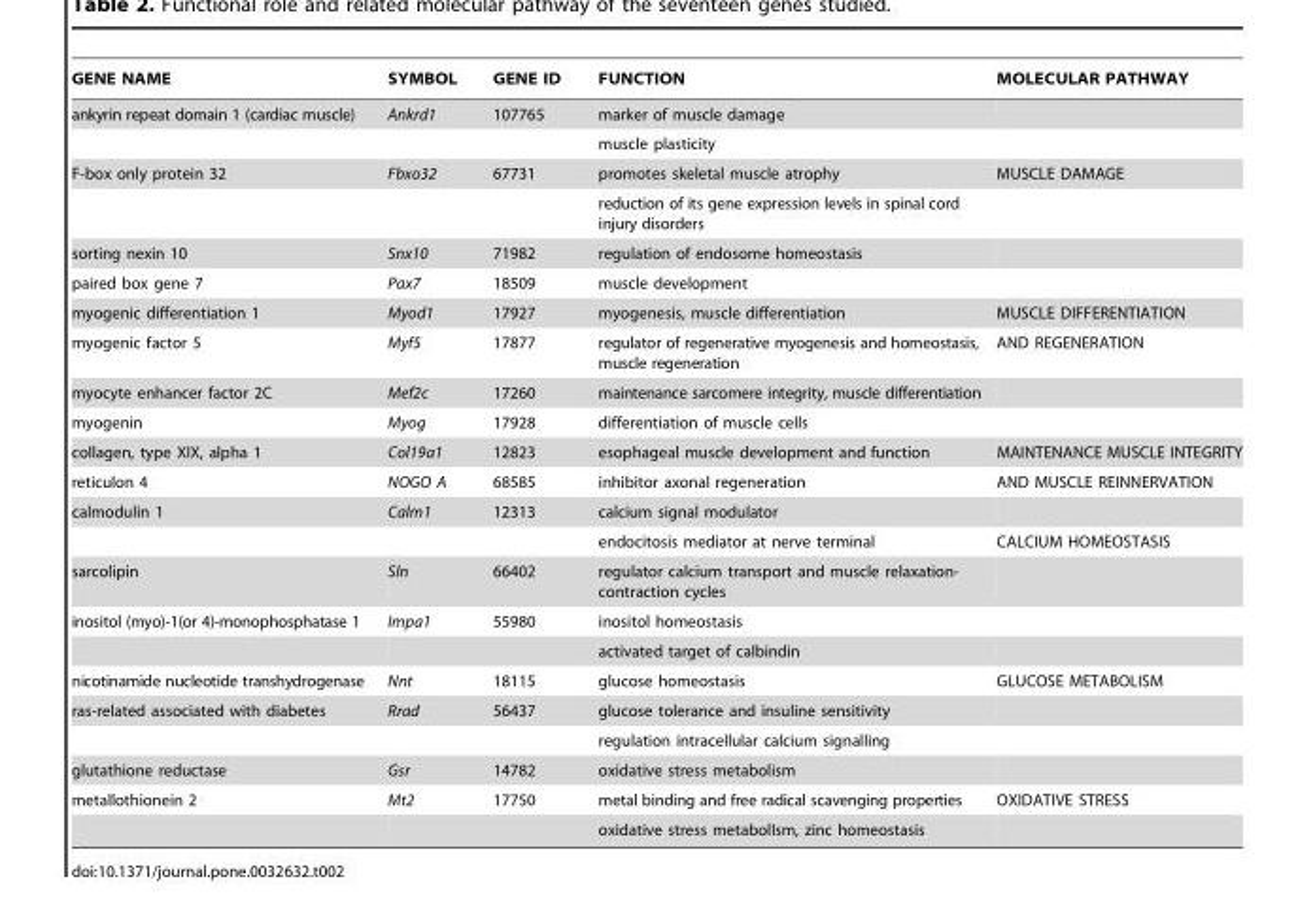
<table><thead><tr><td>GENE NAME</td><td>SYMBOL</td><td>GENE ID</td><td>FUNCTION</td><td>MOLECULAR PATHWAY</td></tr></thead><tbody><tr><td rowspan="2">ankyrin repeat domain 1 (cardiac muscle)</td><td>Ankrd1</td><td>107765</td><td>marker of muscle damage</td><td></td></tr><tr><td></td><td></td><td>muscle plasticity</td><td></td></tr><tr><td rowspan="2">F-box only protein 32</td><td>Fbxo32</td><td>67731</td><td>promotes skeletal muscle atrophy</td><td>MUSCLE DAMAGE</td></tr><tr><td></td><td></td><td>reduction of its gene expression levels in spinal cord injury disorders</td><td></td></tr><tr><td>sorting nexin 10</td><td>Snx10</td><td>71982</td><td>regulation of endosome homeostasis</td><td></td></tr><tr><td>paired box gene 7</td><td>Pax7</td><td>18509</td><td>muscle development</td><td></td></tr><tr><td>myogenic differentiation 1</td><td>Myod1</td><td>17927</td><td>myogenesis, muscle differentiation</td><td>MUSCLE DIFFERENTIATION</td></tr><tr><td>myogenic factor 5</td><td>Myf5</td><td>17877</td><td>regulator of regenerative myogenesis and homeostasis, muscle regeneration</td><td>AND REGENERATION</td></tr><tr><td>myocyte enhancer factor 2C</td><td>Mef2c</td><td>17260</td><td>maintenance sarcomere integrity, muscle differentiation</td><td></td></tr><tr><td>myogenin</td><td>Myog</td><td>17928</td><td>differentiation of muscle cells</td><td></td></tr><tr><td>collagen, type XIX, alpha 1</td><td>Col19a1</td><td>12823</td><td>esophageal muscle development and function</td><td>MAINTENANCE MUSCLE INTEGRITY</td></tr><tr><td>reticulon 4</td><td>NOGO A</td><td>68585</td><td>inhibitor axonal regeneration</td><td>AND MUSCLE REINNERVATION</td></tr><tr><td rowspan="2">calmodulin 1</td><td>Calm1</td><td>12313</td><td>calcium signal modulator</td><td></td></tr><tr><td></td><td></td><td>endocitosis mediator at nerve terminal</td><td>CALCIUM HOMEOSTASIS</td></tr><tr><td>sarcolipin</td><td>Sln</td><td>66402</td><td>regulator calcium transport and muscle relaxation- contraction cycles</td><td></td></tr><tr><td rowspan="2">inositol (myo)-1(or 4)-monophosphatase 1</td><td>Impa1</td><td>55980</td><td>inositol homeostasis</td><td></td></tr><tr><td></td><td></td><td>activated target of calbindin</td><td></td></tr><tr><td>nicotinamide nucleotide transhydrogenase</td><td>Nnt</td><td>18115</td><td>glucose homeostasis</td><td>GLUCOSE METABOLISM</td></tr><tr><td rowspan="2">ras-related associated with diabetes</td><td>Rrad</td><td>56437</td><td>glucose tolerance and insuline sensitivity</td><td></td></tr><tr><td></td><td></td><td>regulation intracellular calcium signalling</td><td></td></tr><tr><td>glutathione reductase</td><td>Gsr</td><td>14782</td><td>oxidative stress metabolism</td><td></td></tr><tr><td rowspan="2">metallothionein 2</td><td>Mt2</td><td>17750</td><td>metal binding and free radical scavenging properties</td><td>OXIDATIVE STRESS</td></tr><tr><td></td><td></td><td>oxidative stress metabolIsm, zinc homeostasis</td><td></td></tr></tbody></table>